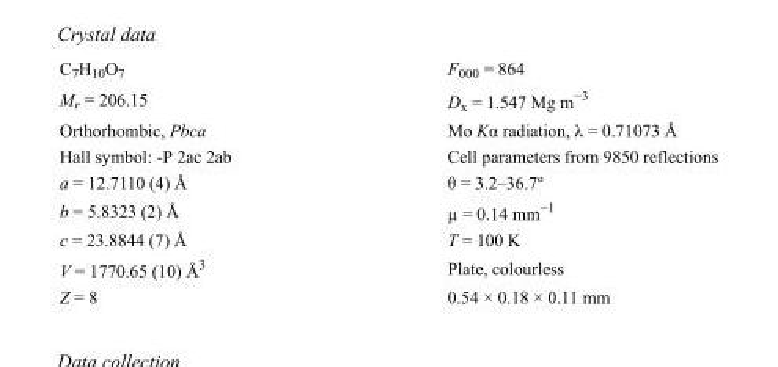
<table><tbody><tr><td>C<sub>7</sub>H<sub>10</sub>O<sub>7</sub></td><td>F000 = 864</td></tr><tr><td>M<sub>r</sub> = 206.15</td><td>D<sub>x</sub> = 1.547 Mg m<sup>−3</sup></td></tr><tr><td>Orthorhombic, Pbca</td><td>Mo Kα radiation, λ = 0.71073 Å</td></tr><tr><td>Hall symbol: -P 2ac 2ab</td><td>Cell parameters from 9850 reflections</td></tr><tr><td>a = 12.7110 (4) Å</td><td>θ = 3.2–36.7º</td></tr><tr><td>b = 5.8323 (2) Å</td><td>µ = 0.14 mm<sup>−1</sup></td></tr><tr><td>c = 23.8844 (7) Å</td><td>T = 100 K</td></tr><tr><td>V = 1770.65 (10) Å<sup>3</sup></td><td>Plate, colourless</td></tr><tr><td>Z = 8</td><td>0.54 × 0.18 × 0.11 mm</td></tr></tbody></table>